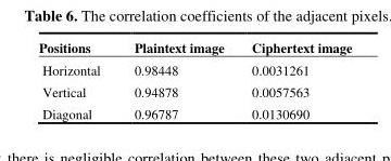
<table><thead><tr><td>Positions</td><td>Plaintext image</td><td>Ciphertext image</td></tr></thead><tbody><tr><td>Horizontal</td><td>0.98448</td><td>0.0031261</td></tr><tr><td>Vertical</td><td>0.94878</td><td>0.0057563</td></tr><tr><td>Diagonal</td><td>0.96787</td><td>0.0130690</td></tr></tbody></table>